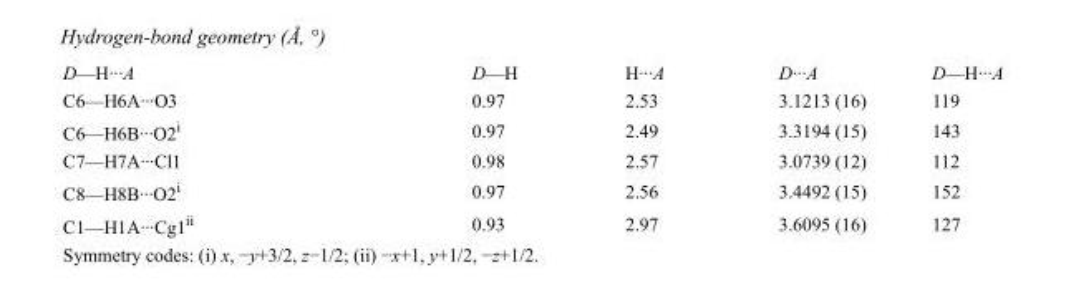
<table><tbody><tr><td>D—H···A</td><td>D—H</td><td>H···A</td><td>D···A</td><td>D—H···A</td></tr><tr><td>C6—H6A···O3</td><td>0.97</td><td>2.53</td><td>3.1213 (16)</td><td>119</td></tr><tr><td>C6—H6B···O2<sup>i</sup></td><td>0.97</td><td>2.49</td><td>3.3194 (15)</td><td>143</td></tr><tr><td>C7—H7A···Cl1</td><td>0.98</td><td>2.57</td><td>3.0739 (12)</td><td>112</td></tr><tr><td>C8—H8B···O2<sup>i</sup></td><td>0.97</td><td>2.56</td><td>3.4492 (15)</td><td>152</td></tr><tr><td>C1—H1A···Cg1<sup>ii</sup></td><td>0.93</td><td>2.97</td><td>3.6095 (16)</td><td>127</td></tr></tbody></table>